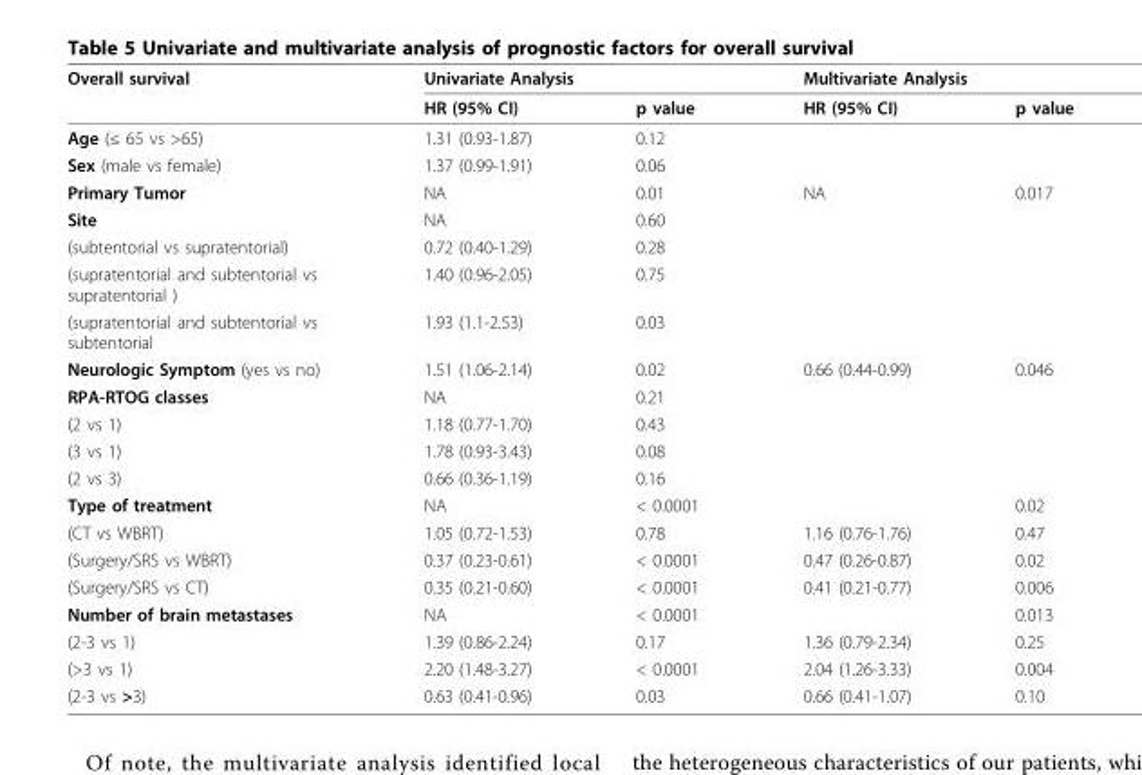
<table><thead><tr><td rowspan="2">Overall survival</td><td colspan="2">Univariate Analysis</td><td colspan="2">Multivariate Analysis</td></tr><tr><td>HR (95% CI)</td><td>p value</td><td>HR (95% CI)</td><td>p value</td></tr></thead><tbody><tr><td>Age (≤ 65 vs &gt;65)</td><td>1.31 (0.93-1.87)</td><td>0.12</td><td></td><td></td></tr><tr><td>Sex (male vs female)</td><td>1.37 (0.99-1.91)</td><td>0.06</td><td></td><td></td></tr><tr><td>Primary Tumor</td><td>NA</td><td>0.01</td><td>NA</td><td>0.017</td></tr><tr><td>Site</td><td>NA</td><td>0.60</td><td></td><td></td></tr><tr><td>(subtentorial vs supratentorial)</td><td>0.72 (0.40-1.29)</td><td>0.28</td><td></td><td></td></tr><tr><td>(supratentorial and subtentorial vs supratentorial )</td><td>1.40 (0.96-2.05)</td><td>0.75</td><td></td><td></td></tr><tr><td>(supratentorial and subtentorial vs subtentorial</td><td>1.93 (1.1-2.53)</td><td>0.03</td><td></td><td></td></tr><tr><td>Neurologic Symptom (yes vs no)</td><td>1.51 (1.06-2.14)</td><td>0.02</td><td>0.66 (0.44-0.99)</td><td>0.046</td></tr><tr><td>RPA-RTOG classes</td><td>NA</td><td>0.21</td><td></td><td></td></tr><tr><td>(2 vs 1)</td><td>1.18 (0.77-1.70)</td><td>0.43</td><td></td><td></td></tr><tr><td>(3 vs 1)</td><td>1.78 (0.93-3.43)</td><td>0.08</td><td></td><td></td></tr><tr><td>(2 vs 3)</td><td>0.66 (0.36-1.19)</td><td>0.16</td><td></td><td></td></tr><tr><td>Type of treatment</td><td>NA</td><td>&lt; 0.0001</td><td></td><td>0.02</td></tr><tr><td>(CT vs WBRT)</td><td>1.05 (0.72-1.53)</td><td>0.78</td><td>1.16 (0.76-1.76)</td><td>0.47</td></tr><tr><td>(Surgery/SRS vs WBRT)</td><td>0.37 (0.23-0.61)</td><td>&lt; 0.0001</td><td>0.47 (0.26-0.87)</td><td>0.02</td></tr><tr><td>(Surgery/SRS vs CT)</td><td>0.35 (0.21-0.60)</td><td>&lt; 0.0001</td><td>0.41 (0.21-0.77)</td><td>0.006</td></tr><tr><td>Number of brain metastases</td><td>NA</td><td>&lt; 0.0001</td><td></td><td>0.013</td></tr><tr><td>(2-3 vs 1)</td><td>1.39 (0.86-2.24)</td><td>0.17</td><td>1.36 (0.79-2.34)</td><td>0.25</td></tr><tr><td>(&gt;3 vs 1)</td><td>2.20 (1.48-3.27)</td><td>&lt; 0.0001</td><td>2.04 (1.26-3.33)</td><td>0.004</td></tr><tr><td>(2-3 vs &gt;3)</td><td>0.63 (0.41-0.96)</td><td>0.03</td><td>0.66 (0.41-1.07)</td><td>0.10</td></tr></tbody></table>